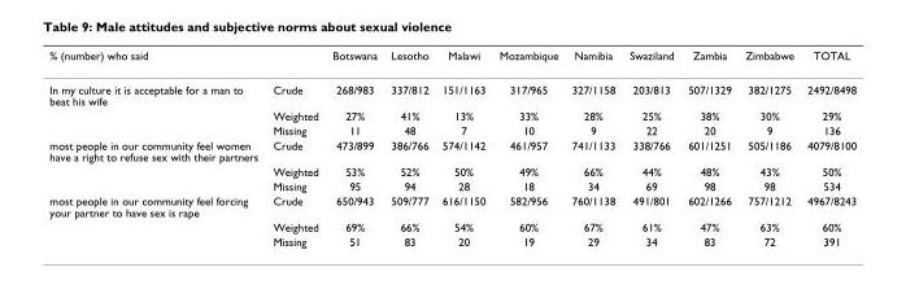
<table><thead><tr><td>% (number) who said</td><td></td><td>Botswana</td><td>Lesotho</td><td>Malawi</td><td>Mozambique</td><td>Namibia</td><td>Swaziland</td><td>Zambia</td><td>Zimbabwe</td><td>TOTAL</td></tr></thead><tbody><tr><td rowspan="3">In my culture it is acceptable for a man to beat his wife</td><td>Crude</td><td>268/983</td><td>337/812</td><td>151/1163</td><td>317/965</td><td>327/1158</td><td>203/813</td><td>507/1329</td><td>382/1275</td><td>2492/8498</td></tr><tr><td>Weighted</td><td>27%</td><td>41%</td><td>13%</td><td>33%</td><td>28%</td><td>25%</td><td>38%</td><td>30%</td><td>29%</td></tr><tr><td>Missing</td><td>11</td><td>48</td><td>7</td><td>10</td><td>9</td><td>22</td><td>20</td><td>9</td><td>136</td></tr><tr><td rowspan="3">most people in our community feel women have a right to refuse sex with their partners</td><td>Crude</td><td>473/899</td><td>386/766</td><td>574/1142</td><td>461/957</td><td>741/1133</td><td>338/766</td><td>601/1251</td><td>505/1186</td><td>4079/8100</td></tr><tr><td>Weighted</td><td>53%</td><td>52%</td><td>50%</td><td>49%</td><td>66%</td><td>44%</td><td>48%</td><td>43%</td><td>50%</td></tr><tr><td>Missing</td><td>95</td><td>94</td><td>28</td><td>18</td><td>34</td><td>69</td><td>98</td><td>98</td><td>534</td></tr><tr><td rowspan="3">most people in our community feel forcing your partner to have sex is rape</td><td>Crude</td><td>650/943</td><td>509/777</td><td>616/1150</td><td>582/956</td><td>760/1138</td><td>491/801</td><td>602/1266</td><td>757/1212</td><td>4967/8243</td></tr><tr><td>Weighted</td><td>69%</td><td>66%</td><td>54%</td><td>60%</td><td>67%</td><td>61%</td><td>47%</td><td>63%</td><td>60%</td></tr><tr><td>Missing</td><td>51</td><td>83</td><td>20</td><td>19</td><td>29</td><td>34</td><td>83</td><td>72</td><td>391</td></tr></tbody></table>